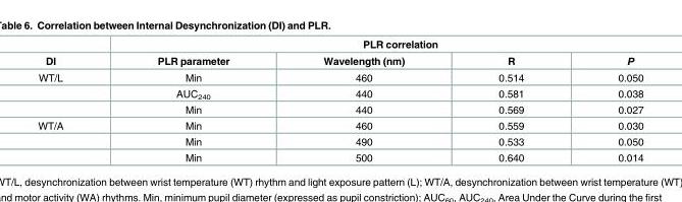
<table><thead><tr><td rowspan="2">DI</td><td colspan="4">PLR correlation</td></tr><tr><td>PLR parameter</td><td>Wavelength (nm)</td><td>R</td><td>P</td></tr></thead><tbody><tr><td rowspan="3">WT/L</td><td>Min</td><td>460</td><td>0.514</td><td>0.050</td></tr><tr><td>AUC<sub>240</sub></td><td>440</td><td>0.581</td><td>0.038</td></tr><tr><td>Min</td><td>440</td><td>0.569</td><td>0.027</td></tr><tr><td rowspan="3">WT/A</td><td>Min</td><td>460</td><td>0.559</td><td>0.030</td></tr><tr><td>Min</td><td>490</td><td>0.533</td><td>0.050</td></tr><tr><td>Min</td><td>500</td><td>0.640</td><td>0.014</td></tr></tbody></table>